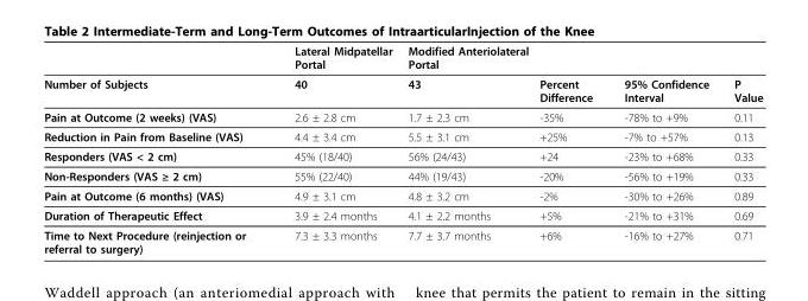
<table><thead><tr><td></td><td>Lateral Midpatellar Portal</td><td>Modified Anteriolateral Portal</td><td></td><td></td><td></td></tr></thead><tbody><tr><td>Number of Subjects</td><td>40</td><td>43</td><td>Percent Difference</td><td>95% Confidence Interval</td><td>P Value</td></tr><tr><td>Pain at Outcome (2 weeks) (VAS)</td><td>2.6 ± 2.8 cm</td><td>1.7 ± 2.3 cm</td><td>-35%</td><td>-78% to +9%</td><td>0.11</td></tr><tr><td>Reduction in Pain from Baseline (VAS)</td><td>4.4 ± 3.4 cm</td><td>5.5 ± 3.1 cm</td><td>+25%</td><td>-7% to +57%</td><td>0.13</td></tr><tr><td>Responders (VAS &lt; 2 cm)</td><td>45% (18/40)</td><td>56% (24/43)</td><td>+24</td><td>-23% to +68%</td><td>0.33</td></tr><tr><td>Non-Responders (VAS ≥ 2 cm)</td><td>55% (22/40)</td><td>44% (19/43)</td><td>-20%</td><td>-56% to +19%</td><td>0.33</td></tr><tr><td>Pain at Outcome (6 months) (VAS)</td><td>4.9 ± 3.1 cm</td><td>4.8 ± 3.2 cm</td><td>-2%</td><td>-30% to +26%</td><td>0.89</td></tr><tr><td>Duration of Therapeutic Effect</td><td>3.9 ± 2.4 months</td><td>4.1 ± 2.2 months</td><td>+5%</td><td>-21% to +31%</td><td>0.69</td></tr><tr><td>Time to Next Procedure (reinjection or referral to surgery)</td><td>7.3 ± 3.3 months</td><td>7.7 ± 3.7 months</td><td>+6%</td><td>-16% to +27%</td><td>0.71</td></tr></tbody></table>